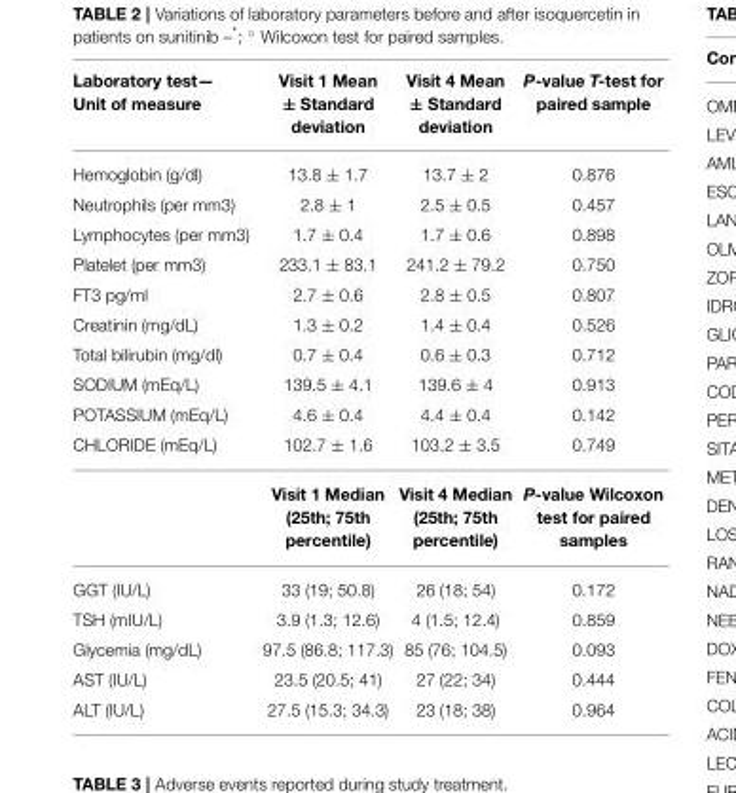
<table><thead><tr><td>Laboratory test— Unit of measure</td><td>Visit 1 Mean ± Standard deviation</td><td>Visit 4 Mean ± Standard deviation</td><td>P-value T-test for paired sample</td></tr></thead><tbody><tr><td>Hemoglobin (g/dl)</td><td>13.8 ± 1.7</td><td>13.7 ± 2</td><td>0.876</td></tr><tr><td>Neutrophils (per mm3)</td><td>2.8 ± 1</td><td>2.5 ± 0.5</td><td>0.457</td></tr><tr><td>Lymphocytes (per mm3)</td><td>1.7 ± 0.4</td><td>1.7 ± 0.6</td><td>0.898</td></tr><tr><td>Platelet (per mm3)</td><td>233.1 ± 83.1</td><td>241.2 ± 79.2</td><td>0.750</td></tr><tr><td>FT3 pg/ml</td><td>2.7 ± 0.6</td><td>2.8 ± 0.5</td><td>0.807</td></tr><tr><td>Creatinin (mg/dL)</td><td>1.3 ± 0.2</td><td>1.4 ± 0.4</td><td>0.526</td></tr><tr><td>Total bilirubin (mg/dl)</td><td>0.7 ± 0.4</td><td>0.6 ± 0.3</td><td>0.712</td></tr><tr><td>SODIUM (mEq/L)</td><td>139.5 ± 4.1</td><td>139.6 ± 4</td><td>0.913</td></tr><tr><td>POTASSIUM (mEq/L)</td><td>4.6 ± 0.4</td><td>4.4 ± 0.4</td><td>0.142</td></tr><tr><td rowspan="2">CHLORIDE (mEq/L)</td><td>102.7 ± 1.6</td><td>103.2 ± 3.5</td><td>0.749</td></tr><tr><td>Visit 1 Median (25th; 75th percentile)</td><td>Visit 4 Median (25th; 75th percentile)</td><td>P-value Wilcoxon test for paired samples</td></tr><tr><td>GGT (IU/L)</td><td>33 (19; 50.8)</td><td>26 (18; 54)</td><td>0.172</td></tr><tr><td>TSH (mIU/L)</td><td>3.9 (1.3; 12.6)</td><td>4 (1.5; 12.4)</td><td>0.859</td></tr><tr><td>Glycemia (mg/dL)</td><td>97.5 (86.8; 117.3)</td><td>85 (76; 104.5)</td><td>0.093</td></tr><tr><td>AST (IU/L)</td><td>23.5 (20.5; 41)</td><td>27 (22; 34)</td><td>0.444</td></tr><tr><td>ALT (IU/L)</td><td>27.5 (15.3; 34.3)</td><td>23 (18; 38)</td><td>0.964</td></tr></tbody></table>